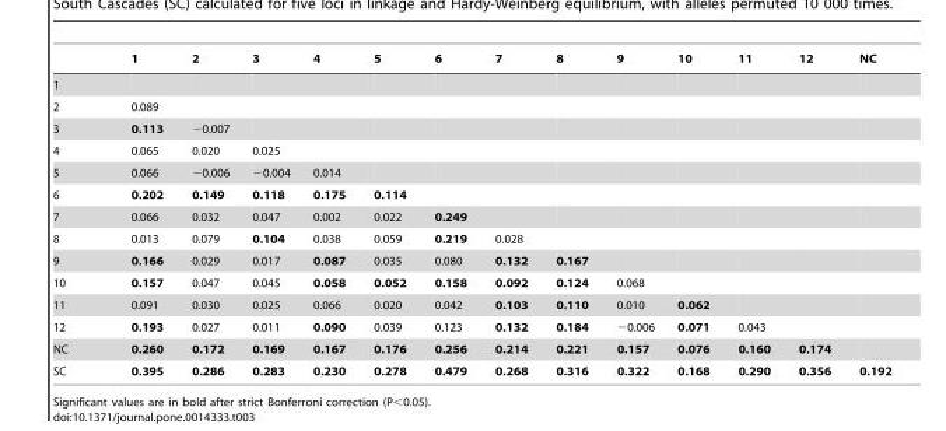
<table><thead><tr><td></td><td>1</td><td>2</td><td>3</td><td>4</td><td>5</td><td>6</td><td>7</td><td>8</td><td>9</td><td>10</td><td>11</td><td>12</td><td>NC</td></tr></thead><tbody><tr><td colspan="14">1</td></tr><tr><td>2</td><td>0.089</td><td></td><td></td><td></td><td></td><td></td><td></td><td></td><td></td><td></td><td></td><td></td><td></td></tr><tr><td>3</td><td>0.113</td><td>−0.007</td><td></td><td></td><td></td><td></td><td></td><td></td><td></td><td></td><td></td><td></td><td></td></tr><tr><td>4</td><td>0.065</td><td>0.020</td><td>0.025</td><td></td><td></td><td></td><td></td><td></td><td></td><td></td><td></td><td></td><td></td></tr><tr><td>5</td><td>0.066</td><td>−0.006</td><td>−0.004</td><td>0.014</td><td></td><td></td><td></td><td></td><td></td><td></td><td></td><td></td><td></td></tr><tr><td>6</td><td>0.202</td><td>0.149</td><td>0.118</td><td>0.175</td><td>0.114</td><td></td><td></td><td></td><td></td><td></td><td></td><td></td><td></td></tr><tr><td>7</td><td>0.066</td><td>0.032</td><td>0.047</td><td>0.002</td><td>0.022</td><td>0.249</td><td></td><td></td><td></td><td></td><td></td><td></td><td></td></tr><tr><td>8</td><td>0.013</td><td>0.079</td><td>0.104</td><td>0.038</td><td>0.059</td><td>0.219</td><td>0.028</td><td></td><td></td><td></td><td></td><td></td><td></td></tr><tr><td>9</td><td>0.166</td><td>0.029</td><td>0.017</td><td>0.087</td><td>0.035</td><td>0.080</td><td>0.132</td><td>0.167</td><td></td><td></td><td></td><td></td><td></td></tr><tr><td>10</td><td>0.157</td><td>0.047</td><td>0.045</td><td>0.058</td><td>0.052</td><td>0.158</td><td>0.092</td><td>0.124</td><td>0.068</td><td></td><td></td><td></td><td></td></tr><tr><td>11</td><td>0.091</td><td>0.030</td><td>0.025</td><td>0.066</td><td>0.020</td><td>0.042</td><td>0.103</td><td>0.110</td><td>0.010</td><td>0.062</td><td></td><td></td><td></td></tr><tr><td>12</td><td>0.193</td><td>0.027</td><td>0.011</td><td>0.090</td><td>0.039</td><td>0.123</td><td>0.132</td><td>0.184</td><td>−0.006</td><td>0.071</td><td>0.043</td><td></td><td></td></tr><tr><td>NC</td><td>0.260</td><td>0.172</td><td>0.169</td><td>0.167</td><td>0.176</td><td>0.256</td><td>0.214</td><td>0.221</td><td>0.157</td><td>0.076</td><td>0.160</td><td>0.174</td><td></td></tr><tr><td>SC</td><td>0.395</td><td>0.286</td><td>0.283</td><td>0.230</td><td>0.278</td><td>0.479</td><td>0.268</td><td>0.316</td><td>0.322</td><td>0.168</td><td>0.290</td><td>0.356</td><td>0.192</td></tr></tbody></table>